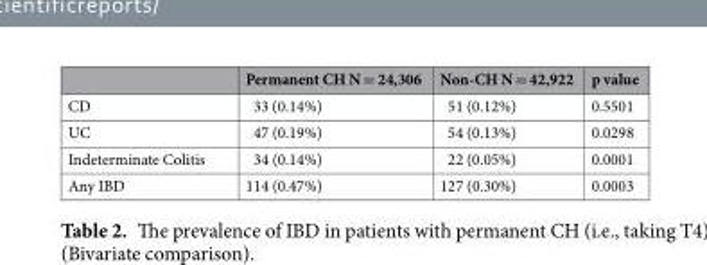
<table><thead><tr><td></td><td>Permanent CH N = 24,306</td><td>Non-CH N = 42,922</td><td>p value</td></tr></thead><tbody><tr><td>CD</td><td>33 (0.14%)</td><td>51 (0.12%)</td><td>0.5501</td></tr><tr><td>UC</td><td>47 (0.19%)</td><td>54 (0.13%)</td><td>0.0298</td></tr><tr><td>Indeterminate Colitis</td><td>34 (0.14%)</td><td>22 (0.05%)</td><td>0.0001</td></tr><tr><td>Any IBD</td><td>114 (0.47%)</td><td>127 (0.30%)</td><td>0.0003</td></tr></tbody></table>